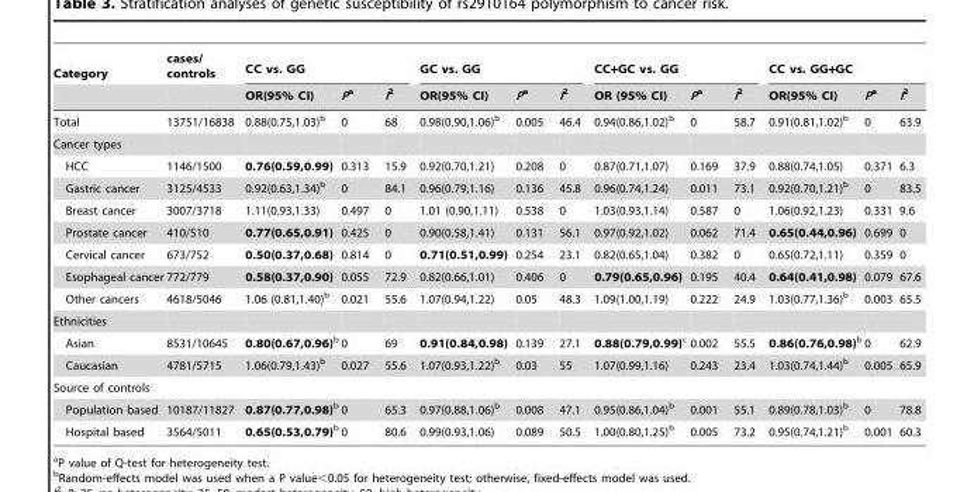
<table><thead><tr><td rowspan="2">Category</td><td rowspan="2">cases/ controls</td><td colspan="3">CC vs. GG</td><td colspan="3">GC vs. GG</td><td colspan="3">CC+GC vs. GG</td><td colspan="3">CC vs. GG+GC</td></tr><tr><td>OR(95% CI)</td><td>Pa</td><td>I<sup>2</sup></td><td>OR(95% CI)</td><td>Pa</td><td>I<sup>2</sup></td><td>OR (95% CI)</td><td>Pa</td><td>I<sup>2</sup></td><td>OR(95% CI)</td><td>Pa</td><td>I<sup>2</sup></td></tr></thead><tbody><tr><td>Total</td><td>13751/16838</td><td>0.88(0.75,1.03)<sup>b</sup></td><td>0</td><td>68</td><td>0.98(0.90,1.06)<sup>b</sup></td><td>0.005</td><td>46.4</td><td>0.94(0.86,1.02)<sup>b</sup></td><td>0</td><td>58.7</td><td>0.91(0.81,1.02)<sup>b</sup></td><td>0</td><td>63.9</td></tr><tr><td colspan="14">Cancer types</td></tr><tr><td>HCC</td><td>1146/1500</td><td>0.76(0.59,0.99)</td><td>0.313</td><td>15.9</td><td>0.92(0.70,1.21)</td><td>0.208</td><td>0</td><td>0.87(0.71,1.07)</td><td>0.169</td><td>37.9</td><td>0.88(0.74,1.05)</td><td>0.371</td><td>6.3</td></tr><tr><td>Gastric cancer</td><td>3125/4533</td><td>0.92(0.63,1.34)<sup>b</sup></td><td>0</td><td>84.1</td><td>0.96(0.79,1.16)</td><td>0.136</td><td>45.8</td><td>0.96(0.74,1.24)</td><td>0.011</td><td>73.1</td><td>0.92(0.70,1.21)<sup>b</sup></td><td>0</td><td>83.5</td></tr><tr><td>Breast cancer</td><td>3007/3718</td><td>1.11(0.93,1.33)</td><td>0.497</td><td>0</td><td>1.01 (0.90,1.11)</td><td>0.538</td><td>0</td><td>1.03(0.93,1.14)</td><td>0.587</td><td>0</td><td>1.06(0.92,1.23)</td><td>0.331</td><td>9.6</td></tr><tr><td>Prostate cancer</td><td>410/510</td><td>0.77(0.65,0.91)</td><td>0.425</td><td>0</td><td>0.90(0.58,1.41)</td><td>0.131</td><td>56.1</td><td>0.97(0.92,1.02)</td><td>0.062</td><td>71.4</td><td>0.65(0.44,0.96)</td><td>0.699</td><td>0</td></tr><tr><td>Cervical cancer</td><td>673/752</td><td>0.50(0.37,0.68)</td><td>0.814</td><td>0</td><td>0.71(0.51,0.99)</td><td>0.254</td><td>23.1</td><td>0.82(0.65,1.04)</td><td>0.382</td><td>0</td><td>0.65(0.72,1.11)</td><td>0.359</td><td>0</td></tr><tr><td>Esophageal cancer</td><td>772/779</td><td>0.58(0.37,0.90)</td><td>0.055</td><td>72.9</td><td>0.82(0.66,1.01)</td><td>0.406</td><td>0</td><td>0.79(0.65,0.96)</td><td>0.195</td><td>40.4</td><td>0.64(0.41,0.98)</td><td>0.079</td><td>67.6</td></tr><tr><td>Other cancers</td><td>4618/5046</td><td>1.06 (0.81,1.40)<sup>b</sup></td><td>0.021</td><td>55.6</td><td>1.07(0.94,1.22)</td><td>0.05</td><td>48.3</td><td>1.09(1.00,1.19)</td><td>0.222</td><td>24.9</td><td>1.03(0.77,1.36)<sup>b</sup></td><td>0.003</td><td>65.5</td></tr><tr><td colspan="14">Ethnicities</td></tr><tr><td>Asian</td><td>8531/10645</td><td>0.80(0.67,0.96)b</td><td>0</td><td>69</td><td>0.91(0.84,0.98)</td><td>0.139</td><td>27.1</td><td>0.88(0.79,0.99)<sup>c</sup></td><td>0.002</td><td>55.5</td><td>0.86(0.76,0.98)b</td><td>0</td><td>62.9</td></tr><tr><td>Caucasian</td><td>4781/5715</td><td>1.06(0.79,1.43)<sup>b</sup></td><td>0.027</td><td>55.6</td><td>1.07(0.93,1.22)<sup>b</sup></td><td>0.03</td><td>55</td><td>1.07(0.99,1.16)</td><td>0.243</td><td>23.4</td><td>1.03(0.74,1.44)<sup>b</sup></td><td>0.005</td><td>65.9</td></tr><tr><td colspan="14">Source of controls</td></tr><tr><td>Population based</td><td>10187/11827</td><td>0.87(0.77,0.98)b</td><td>0</td><td>65.3</td><td>0.97(0.88,1.06)<sup>b</sup></td><td>0.008</td><td>47.1</td><td>0.95(0.86,1.04)<sup>b</sup></td><td>0.001</td><td>55.1</td><td>0.89(0.78,1.03)<sup>b</sup></td><td>0</td><td>78.8</td></tr><tr><td>Hospital based</td><td>3564/5011</td><td>0.65(0.53,0.79)b</td><td>0</td><td>80.6</td><td>0.99(0.93,1.06)</td><td>0.089</td><td>50.5</td><td>1.00(0.80,1.25)<sup>b</sup></td><td>0.005</td><td>73.2</td><td>0.95(0.74,1.21)<sup>b</sup></td><td>0.001</td><td>60.3</td></tr></tbody></table>